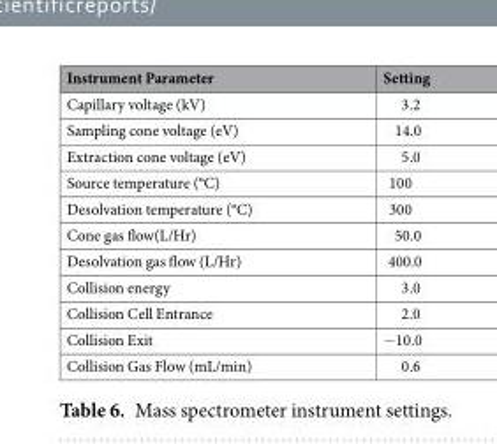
<table><thead><tr><td>Instrument Parameter</td><td>Setting</td></tr></thead><tbody><tr><td>Capillary voltage (kV)</td><td>3.2</td></tr><tr><td>Sampling cone voltage (eV)</td><td>14.0</td></tr><tr><td>Extraction cone voltage (eV)</td><td>5.0</td></tr><tr><td>Source temperature (°C)</td><td>100</td></tr><tr><td>Desolvation temperature (°C)</td><td>300</td></tr><tr><td>Cone gas flow(L/Hr)</td><td>50.0</td></tr><tr><td>Desolvation gas flow (L/Hr)</td><td>400.0</td></tr><tr><td>Collision energy</td><td>3.0</td></tr><tr><td>Collision Cell Entrance</td><td>2.0</td></tr><tr><td>Collision Exit</td><td>−10.0</td></tr><tr><td>Collision Gas Flow (mL/min)</td><td>0.6</td></tr></tbody></table>